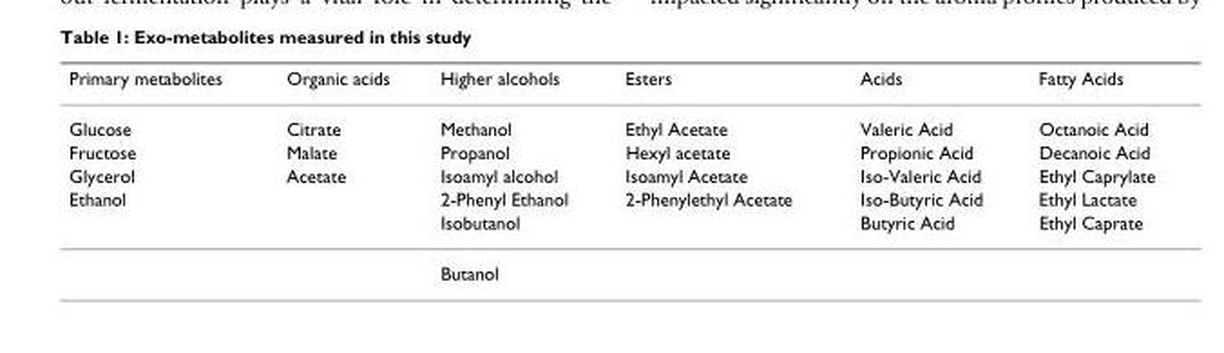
<table><thead><tr><td>Primary metabolites</td><td>Organic acids</td><td>Higher alcohols</td><td>Esters</td><td>Acids</td><td>Fatty Acids</td></tr></thead><tbody><tr><td>Glucose</td><td>Citrate</td><td>Methanol</td><td>Ethyl Acetate</td><td>Valeric Acid</td><td>Octanoic Acid</td></tr><tr><td>Fructose</td><td>Malate</td><td>Propanol</td><td>Hexyl acetate</td><td>Propionic Acid</td><td>Decanoic Acid</td></tr><tr><td>Glycerol</td><td>Acetate</td><td>Isoamyl alcohol</td><td>Isoamyl Acetate</td><td>Iso-Valeric Acid</td><td>Ethyl Caprylate</td></tr><tr><td rowspan="3">Ethanol</td><td></td><td>2-Phenyl Ethanol</td><td>2-Phenylethyl Acetate</td><td>Iso-Butyric Acid</td><td>Ethyl Lactate</td></tr><tr><td></td><td>Isobutanol</td><td></td><td>Butyric Acid</td><td>Ethyl Caprate</td></tr><tr><td></td><td>Butanol</td><td></td><td></td><td></td></tr></tbody></table>